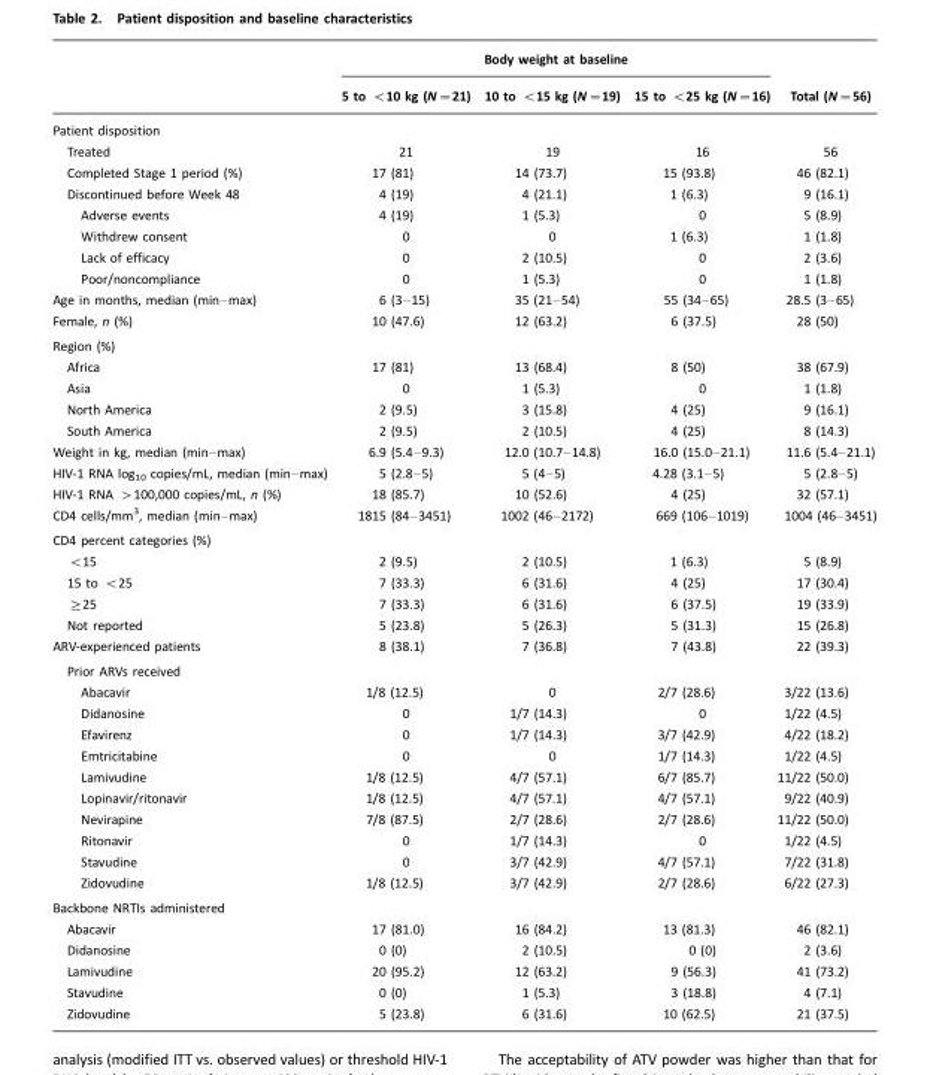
<table><thead><tr><td rowspan="2"></td><td colspan="3">Body weight at baseline</td><td rowspan="2">Total (N=56)</td></tr><tr><td>5 to &lt;10 kg (N=21)</td><td>10 to &lt;15 kg (N=19)</td><td>15 to &lt;25 kg (N=16)</td></tr></thead><tbody><tr><td colspan="5">Patient disposition</td></tr><tr><td>Treated</td><td>21</td><td>19</td><td>16</td><td>56</td></tr><tr><td>Completed Stage 1 period (%)</td><td>17 (81)</td><td>14 (73.7)</td><td>15 (93.8)</td><td>46 (82.1)</td></tr><tr><td>Discontinued before Week 48</td><td>4 (19)</td><td>4 (21.1)</td><td>1 (6.3)</td><td>9 (16.1)</td></tr><tr><td>Adverse events</td><td>4 (19)</td><td>1 (5.3)</td><td>0</td><td>5 (8.9)</td></tr><tr><td>Withdrew consent</td><td>0</td><td>0</td><td>1 (6.3)</td><td>1 (1.8)</td></tr><tr><td>Lack of efficacy</td><td>0</td><td>2 (10.5)</td><td>0</td><td>2 (3.6)</td></tr><tr><td>Poor/noncompliance</td><td>0</td><td>1 (5.3)</td><td>0</td><td>1 (1.8)</td></tr><tr><td>Age in months, median (min–max)</td><td>6 (3–15)</td><td>35 (21–54)</td><td>55 (34–65)</td><td>28.5 (3–65)</td></tr><tr><td>Female, n (%)</td><td>10 (47.6)</td><td>12 (63.2)</td><td>6 (37.5)</td><td>28 (50)</td></tr><tr><td colspan="5">Region (%)</td></tr><tr><td>Africa</td><td>17 (81)</td><td>13 (68.4)</td><td>8 (50)</td><td>38 (67.9)</td></tr><tr><td>Asia</td><td>0</td><td>1 (5.3)</td><td>0</td><td>1 (1.8)</td></tr><tr><td>North America</td><td>2 (9.5)</td><td>3 (15.8)</td><td>4 (25)</td><td>9 (16.1)</td></tr><tr><td>South America</td><td>2 (9.5)</td><td>2 (10.5)</td><td>4 (25)</td><td>8 (14.3)</td></tr><tr><td>Weight in kg, median (min–max)</td><td>6.9 (5.4–9.3)</td><td>12.0 (10.7–14.8)</td><td>16.0 (15.0–21.1)</td><td>11.6 (5.4–21.1)</td></tr><tr><td>HIV-1 RNA log<sub>10</sub> copies/mL, median (min–max)</td><td>5 (2.8–5)</td><td>5 (4–5)</td><td>4.28 (3.1–5)</td><td>5 (2.8–5)</td></tr><tr><td>HIV-1 RNA &gt;100,000 copies/mL, n (%)</td><td>18 (85.7)</td><td>10 (52.6)</td><td>4 (25)</td><td>32 (57.1)</td></tr><tr><td>CD4 cells/mm<sup>3</sup>, median (min–max)</td><td>1815 (84–3451)</td><td>1002 (46–2172)</td><td>669 (106–1019)</td><td>1004 (46–3451)</td></tr><tr><td colspan="5">CD4 percent categories (%)</td></tr><tr><td>&lt;15</td><td>2 (9.5)</td><td>2 (10.5)</td><td>1 (6.3)</td><td>5 (8.9)</td></tr><tr><td>15 to &lt;25</td><td>7 (33.3)</td><td>6 (31.6)</td><td>4 (25)</td><td>17 (30.4)</td></tr><tr><td>≥25</td><td>7 (33.3)</td><td>6 (31.6)</td><td>6 (37.5)</td><td>19 (33.9)</td></tr><tr><td>Not reported</td><td>5 (23.8)</td><td>5 (26.3)</td><td>5 (31.3)</td><td>15 (26.8)</td></tr><tr><td>ARV-experienced patients</td><td>8 (38.1)</td><td>7 (36.8)</td><td>7 (43.8)</td><td>22 (39.3)</td></tr><tr><td colspan="5">Prior ARVs received</td></tr><tr><td>Abacavir</td><td>1/8 (12.5)</td><td>0</td><td>2/7 (28.6)</td><td>3/22 (13.6)</td></tr><tr><td>Didanosine</td><td>0</td><td>1/7 (14.3)</td><td>0</td><td>1/22 (4.5)</td></tr><tr><td>Efavirenz</td><td>0</td><td>1/7 (14.3)</td><td>3/7 (42.9)</td><td>4/22 (18.2)</td></tr><tr><td>Emtricitabine</td><td>0</td><td>0</td><td>1/7 (14.3)</td><td>1/22 (4.5)</td></tr><tr><td>Lamivudine</td><td>1/8 (12.5)</td><td>4/7 (57.1)</td><td>6/7 (85.7)</td><td>11/22 (50.0)</td></tr><tr><td>Lopinavir/ritonavir</td><td>1/8 (12.5)</td><td>4/7 (57.1)</td><td>4/7 (57.1)</td><td>9/22 (40.9)</td></tr><tr><td>Nevirapine</td><td>7/8 (87.5)</td><td>2/7 (28.6)</td><td>2/7 (28.6)</td><td>11/22 (50.0)</td></tr><tr><td>Ritonavir</td><td>0</td><td>1/7 (14.3)</td><td>0</td><td>1/22 (4.5)</td></tr><tr><td>Stavudine</td><td>0</td><td>3/7 (42.9)</td><td>4/7 (57.1)</td><td>7/22 (31.8)</td></tr><tr><td>Zidovudine</td><td>1/8 (12.5)</td><td>3/7 (42.9)</td><td>2/7 (28.6)</td><td>6/22 (27.3)</td></tr><tr><td colspan="5">Backbone NRTIs administered</td></tr><tr><td>Abacavir</td><td>17 (81.0)</td><td>16 (84.2)</td><td>13 (81.3)</td><td>46 (82.1)</td></tr><tr><td>Didanosine</td><td>0 (0)</td><td>2 (10.5)</td><td>0 (0)</td><td>2 (3.6)</td></tr><tr><td>Lamivudine</td><td>20 (95.2)</td><td>12 (63.2)</td><td>9 (56.3)</td><td>41 (73.2)</td></tr><tr><td>Stavudine</td><td>0 (0)</td><td>1 (5.3)</td><td>3 (18.8)</td><td>4 (7.1)</td></tr><tr><td>Zidovudine</td><td>5 (23.8)</td><td>6 (31.6)</td><td>10 (62.5)</td><td>21 (37.5)</td></tr></tbody></table>